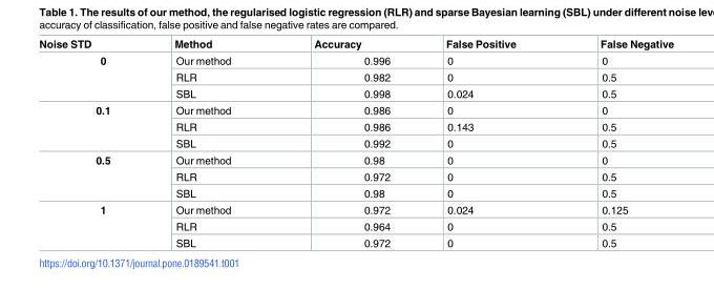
<table><thead><tr><td>Noise STD</td><td>Method</td><td>Accuracy</td><td>False Positive</td><td>False Negative</td></tr></thead><tbody><tr><td rowspan="3">0</td><td>Our method</td><td>0.996</td><td>0</td><td>0</td></tr><tr><td>RLR</td><td>0.982</td><td>0</td><td>0.5</td></tr><tr><td>SBL</td><td>0.998</td><td>0.024</td><td>0.5</td></tr><tr><td rowspan="3">0.1</td><td>Our method</td><td>0.986</td><td>0</td><td>0</td></tr><tr><td>RLR</td><td>0.986</td><td>0.143</td><td>0.5</td></tr><tr><td>SBL</td><td>0.992</td><td>0</td><td>0.5</td></tr><tr><td rowspan="3">0.5</td><td>Our method</td><td>0.98</td><td>0</td><td>0</td></tr><tr><td>RLR</td><td>0.972</td><td>0</td><td>0.5</td></tr><tr><td>SBL</td><td>0.98</td><td>0</td><td>0.5</td></tr><tr><td rowspan="3">1</td><td>Our method</td><td>0.972</td><td>0.024</td><td>0.125</td></tr><tr><td>RLR</td><td>0.964</td><td>0</td><td>0.5</td></tr><tr><td>SBL</td><td>0.972</td><td>0</td><td>0.5</td></tr></tbody></table>